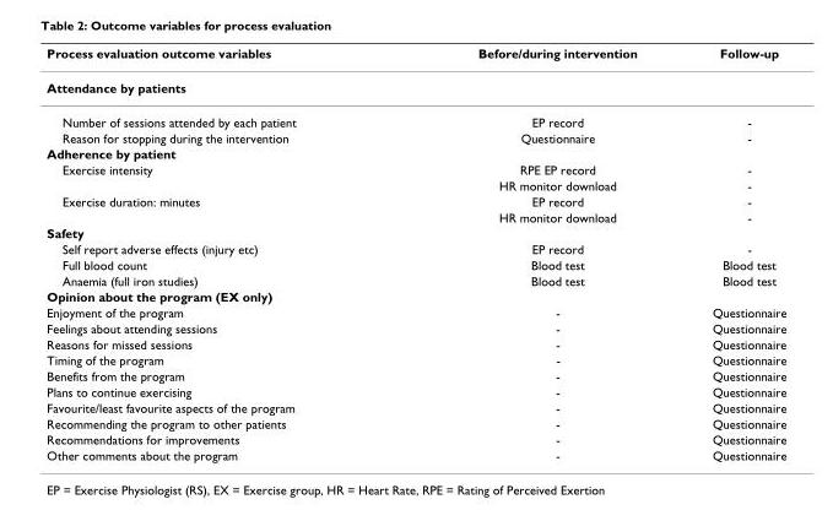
<table><thead><tr><td>Process evaluation outcome variables</td><td>Before/during intervention</td><td>Follow-up</td></tr></thead><tbody><tr><td colspan="3">Attendance by patients</td></tr><tr><td>Number of sessions attended by each patient</td><td>EP record</td><td>-</td></tr><tr><td>Reason for stopping during the intervention</td><td>Questionnaire</td><td>-</td></tr><tr><td colspan="3">Adherence by patient</td></tr><tr><td rowspan="2">Exercise intensity</td><td>RPE EP record</td><td>-</td></tr><tr><td>HR monitor download</td><td>-</td></tr><tr><td rowspan="2">Exercise duration: minutes</td><td>EP record</td><td>-</td></tr><tr><td>HR monitor download</td><td>-</td></tr><tr><td colspan="3">Safety</td></tr><tr><td>Self report adverse effects (injury etc)</td><td>EP record</td><td>-</td></tr><tr><td>Full blood count</td><td>Blood test</td><td>Blood test</td></tr><tr><td>Anaemia (full iron studies)</td><td>Blood test</td><td>Blood test</td></tr><tr><td colspan="3">Opinion about the program (EX only)</td></tr><tr><td>Enjoyment of the program</td><td>-</td><td>Questionnaire</td></tr><tr><td>Feelings about attending sessions</td><td>-</td><td>Questionnaire</td></tr><tr><td>Reasons for missed sessions</td><td>-</td><td>Questionnaire</td></tr><tr><td>Timing of the program</td><td>-</td><td>Questionnaire</td></tr><tr><td>Benefits from the program</td><td>-</td><td>Questionnaire</td></tr><tr><td>Plans to continue exercising</td><td>-</td><td>Questionnaire</td></tr><tr><td>Favourite/least favourite aspects of the program</td><td>-</td><td>Questionnaire</td></tr><tr><td>Recommending the program to other patients</td><td>-</td><td>Questionnaire</td></tr><tr><td>Recommendations for improvements</td><td>-</td><td>Questionnaire</td></tr><tr><td>Other comments about the program</td><td>-</td><td>Questionnaire</td></tr></tbody></table>